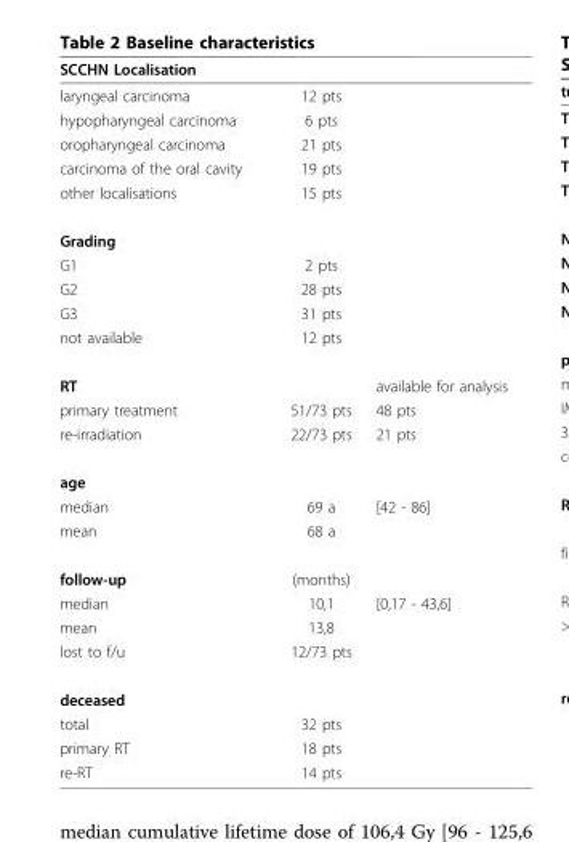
<table><thead><tr><td colspan="2">SCCHN Localisation</td><td rowspan="2"></td></tr><tr><td>laryngeal carcinoma</td><td>12 pts</td></tr></thead><tbody><tr><td>hypopharyngeal carcinoma</td><td>6 pts</td><td></td></tr><tr><td>oropharyngeal carcinoma</td><td>21 pts</td><td></td></tr><tr><td>carcinoma of the oral cavity</td><td>19 pts</td><td></td></tr><tr><td>other localisations</td><td>15 pts</td><td></td></tr><tr><td colspan="3">Grading</td></tr><tr><td>G1</td><td>2 pts</td><td></td></tr><tr><td>G2</td><td>28 pts</td><td></td></tr><tr><td>G3</td><td>31 pts</td><td></td></tr><tr><td>not available</td><td>12 pts</td><td></td></tr><tr><td>RT</td><td></td><td>available for analysis</td></tr><tr><td>primary treatment</td><td>51/73 pts</td><td>48 pts</td></tr><tr><td>re-irradiation</td><td>22/73 pts</td><td>21 pts</td></tr><tr><td colspan="3">age</td></tr><tr><td>median</td><td>69 a</td><td>[42 - 86]</td></tr><tr><td>mean</td><td>68 a</td><td></td></tr><tr><td>follow-up</td><td>(months)</td><td></td></tr><tr><td>median</td><td>10,1</td><td>[0,17 - 43,6]</td></tr><tr><td>mean</td><td>13,8</td><td></td></tr><tr><td>lost to f/u</td><td>12/73 pts</td><td></td></tr><tr><td colspan="3">deceased</td></tr><tr><td>total</td><td>32 pts</td><td></td></tr><tr><td>primary RT</td><td>18 pts</td><td></td></tr><tr><td>re-RT</td><td>14 pts</td><td></td></tr></tbody></table>